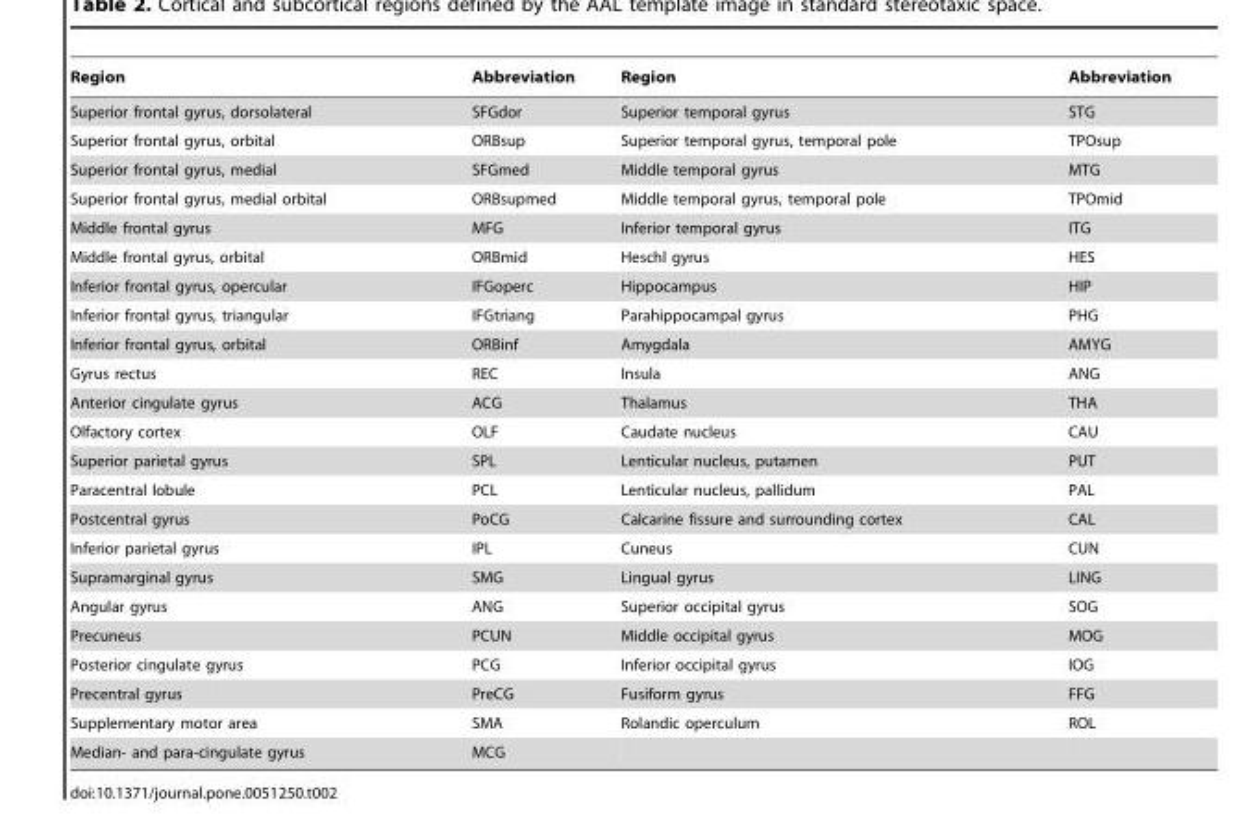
<table><thead><tr><td>Region</td><td>Abbreviation</td><td>Region</td><td>Abbreviation</td></tr></thead><tbody><tr><td>Superior frontal gyrus, dorsolateral</td><td>SFGdor</td><td>Superior temporal gyrus</td><td>STG</td></tr><tr><td>Superior frontal gyrus, orbital</td><td>ORBsup</td><td>Superior temporal gyrus, temporal pole</td><td>TPOsup</td></tr><tr><td>Superior frontal gyrus, medial</td><td>SFGmed</td><td>Middle temporal gyrus</td><td>MTG</td></tr><tr><td>Superior frontal gyrus, medial orbital</td><td>ORBsupmed</td><td>Middle temporal gyrus, temporal pole</td><td>TPOmid</td></tr><tr><td>Middle frontal gyrus</td><td>MFG</td><td>Inferior temporal gyrus</td><td>ITG</td></tr><tr><td>Middle frontal gyrus, orbital</td><td>ORBmid</td><td>Heschl gyrus</td><td>HES</td></tr><tr><td>Inferior frontal gyrus, opercular</td><td>IFGoperc</td><td>Hippocampus</td><td>HIP</td></tr><tr><td>Inferior frontal gyrus, triangular</td><td>IFGtriang</td><td>Parahippocampal gyrus</td><td>PHG</td></tr><tr><td>Inferior frontal gyrus, orbital</td><td>ORBinf</td><td>Amygdala</td><td>AMYG</td></tr><tr><td>Gyrus rectus</td><td>REC</td><td>Insula</td><td>ANG</td></tr><tr><td>Anterior cingulate gyrus</td><td>ACG</td><td>Thalamus</td><td>THA</td></tr><tr><td>Olfactory cortex</td><td>OLF</td><td>Caudate nucleus</td><td>CAU</td></tr><tr><td>Superior parietal gyrus</td><td>SPL</td><td>Lenticular nucleus, putamen</td><td>PUT</td></tr><tr><td>Paracentral lobule</td><td>PCL</td><td>Lenticular nucleus, pallidum</td><td>PAL</td></tr><tr><td>Postcentral gyrus</td><td>PoCG</td><td>Calcarine fissure and surrounding cortex</td><td>CAL</td></tr><tr><td>Inferior parietal gyrus</td><td>IPL</td><td>Cuneus</td><td>CUN</td></tr><tr><td>Supramarginal gyrus</td><td>SMG</td><td>Lingual gyrus</td><td>LING</td></tr><tr><td>Angular gyrus</td><td>ANG</td><td>Superior occipital gyrus</td><td>SOG</td></tr><tr><td>Precuneus</td><td>PCUN</td><td>Middle occipital gyrus</td><td>MOG</td></tr><tr><td>Posterior cingulate gyrus</td><td>PCG</td><td>Inferior occipital gyrus</td><td>IOG</td></tr><tr><td>Precentral gyrus</td><td>PreCG</td><td>Fusiform gyrus</td><td>FFG</td></tr><tr><td>Supplementary motor area</td><td>SMA</td><td>Rolandic operculum</td><td>ROL</td></tr><tr><td>Median- and para-cingulate gyrus</td><td>MCG</td><td></td><td></td></tr></tbody></table>